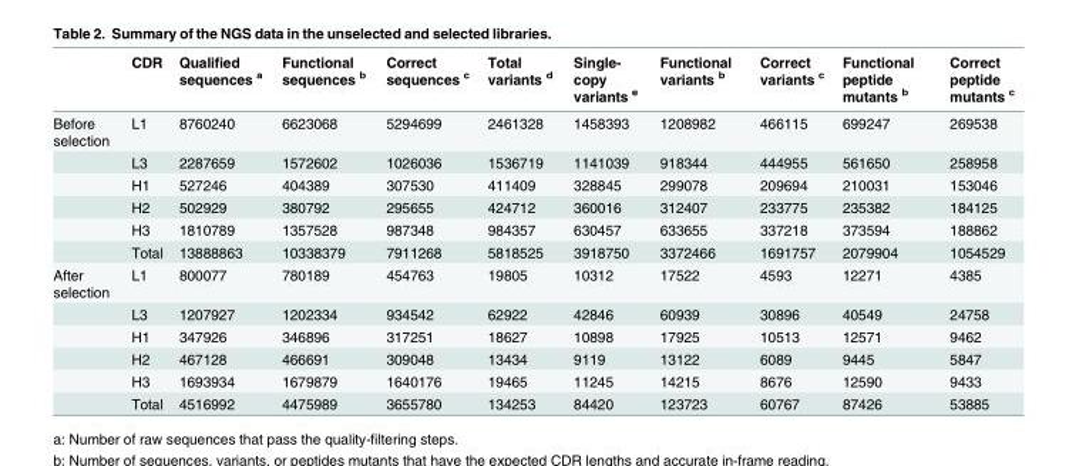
<table><thead><tr><td></td><td>CDR</td><td>Qualified sequences <sup>a</sup></td><td>Functional sequences <sup>b</sup></td><td>Correct sequences <sup>c</sup></td><td>Total variants <sup>d</sup></td><td>Single- copy variants <sup>e</sup></td><td>Functional variants <sup>b</sup></td><td>Correct variants <sup>c</sup></td><td>Functional peptide mutants <sup>b</sup></td><td>Correct peptide mutants <sup>c</sup></td></tr></thead><tbody><tr><td rowspan="6">Before selection</td><td>L1</td><td>8760240</td><td>6623068</td><td>5294699</td><td>2461328</td><td>1458393</td><td>1208982</td><td>466115</td><td>699247</td><td>269538</td></tr><tr><td>L3</td><td>2287659</td><td>1572602</td><td>1026036</td><td>1536719</td><td>1141039</td><td>918344</td><td>444955</td><td>561650</td><td>258958</td></tr><tr><td>H1</td><td>527246</td><td>404389</td><td>307530</td><td>411409</td><td>328845</td><td>299078</td><td>209694</td><td>210031</td><td>153046</td></tr><tr><td>H2</td><td>502929</td><td>380792</td><td>295655</td><td>424712</td><td>360016</td><td>312407</td><td>233775</td><td>235382</td><td>184125</td></tr><tr><td>H3</td><td>1810789</td><td>1357528</td><td>987348</td><td>984357</td><td>630457</td><td>633655</td><td>337218</td><td>373594</td><td>188862</td></tr><tr><td>Total</td><td>13888863</td><td>10338379</td><td>7911268</td><td>5818525</td><td>3918750</td><td>3372466</td><td>1691757</td><td>2079904</td><td>1054529</td></tr><tr><td rowspan="6">After selection</td><td>L1</td><td>800077</td><td>780189</td><td>454763</td><td>19805</td><td>10312</td><td>17522</td><td>4593</td><td>12271</td><td>4385</td></tr><tr><td>L3</td><td>1207927</td><td>1202334</td><td>934542</td><td>62922</td><td>42846</td><td>60939</td><td>30896</td><td>40549</td><td>24758</td></tr><tr><td>H1</td><td>347926</td><td>346896</td><td>317251</td><td>18627</td><td>10898</td><td>17925</td><td>10513</td><td>12571</td><td>9462</td></tr><tr><td>H2</td><td>467128</td><td>466691</td><td>309048</td><td>13434</td><td>9119</td><td>13122</td><td>6089</td><td>9445</td><td>5847</td></tr><tr><td>H3</td><td>1693934</td><td>1679879</td><td>1640176</td><td>19465</td><td>11245</td><td>14215</td><td>8676</td><td>12590</td><td>9433</td></tr><tr><td>Total</td><td>4516992</td><td>4475989</td><td>3655780</td><td>134253</td><td>84420</td><td>123723</td><td>60767</td><td>87426</td><td>53885</td></tr></tbody></table>